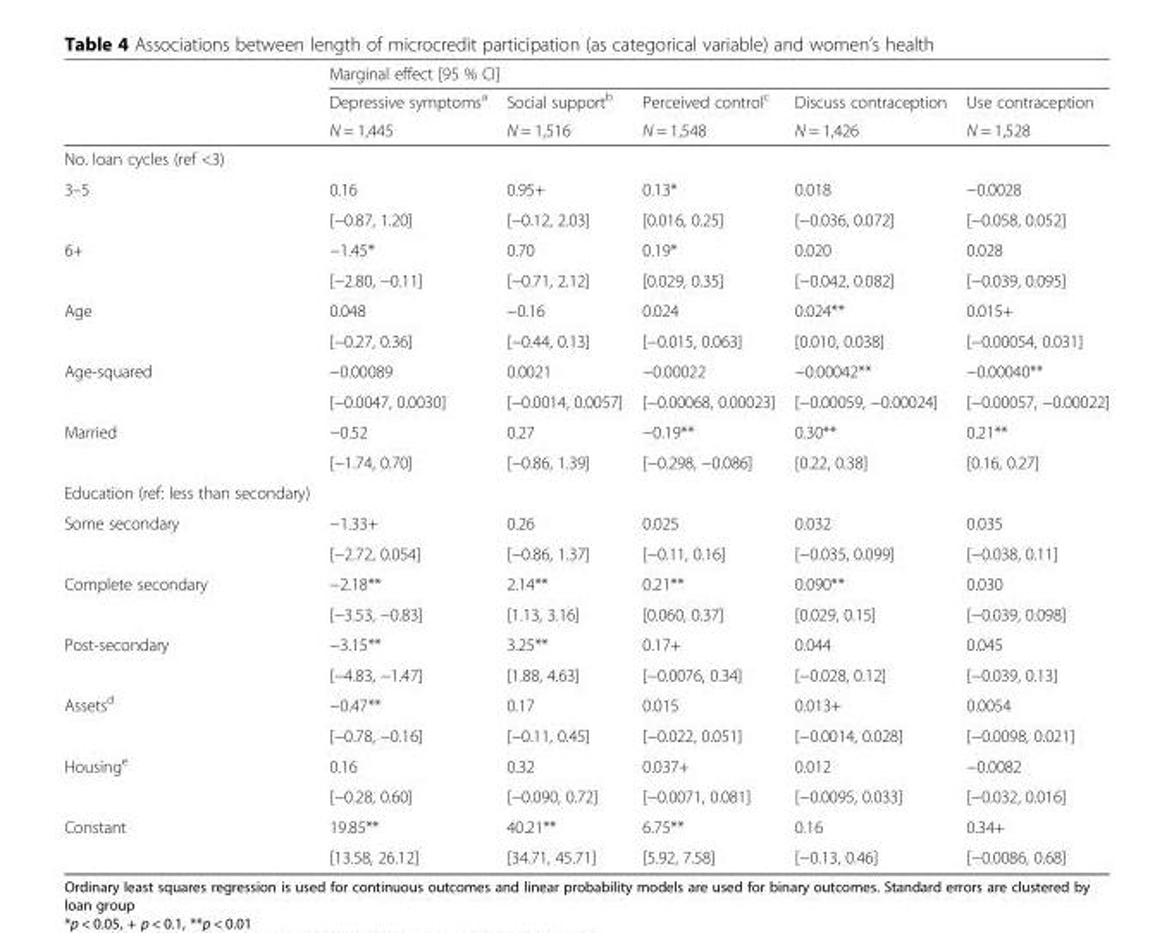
<table><thead><tr><td rowspan="3"></td><td colspan="5">Marginal effect [95 % CI]</td></tr><tr><td rowspan="2">Depressive symptoms<sup>a</sup> N = 1,445</td><td rowspan="2">Social support<sup>b</sup> N = 1,516</td><td rowspan="2">Perceived control<sup>c</sup> N = 1,548</td><td rowspan="2">Discuss contraception N = 1,426</td><td rowspan="2">Use contraception N = 1,528</td></tr><tr></tr></thead><tbody><tr><td colspan="6">No. loan cycles (ref &lt;3)</td></tr><tr><td rowspan="2">3–5</td><td>0.16</td><td>0.95+</td><td>0.13*</td><td>0.018</td><td>−0.0028</td></tr><tr><td>[−0.87, 1.20]</td><td>[−0.12, 2.03]</td><td>[0.016, 0.25]</td><td>[−0.036, 0.072]</td><td>[−0.058, 0.052]</td></tr><tr><td rowspan="2">6+</td><td>−1.45*</td><td>0.70</td><td>0.19*</td><td>0.020</td><td>0.028</td></tr><tr><td>[−2.80, −0.11]</td><td>[−0.71, 2.12]</td><td>[0.029, 0.35]</td><td>[−0.042, 0.082]</td><td>[−0.039, 0.095]</td></tr><tr><td rowspan="2">Age</td><td>0.048</td><td>−0.16</td><td>0.024</td><td>0.024**</td><td>0.015+</td></tr><tr><td>[−0.27, 0.36]</td><td>[−0.44, 0.13]</td><td>[−0.015, 0.063]</td><td>[0.010, 0.038]</td><td>[−0.00054, 0.031]</td></tr><tr><td rowspan="2">Age-squared</td><td>−0.00089</td><td>0.0021</td><td>−0.00022</td><td>−0.00042**</td><td>−0.00040**</td></tr><tr><td>[−0.0047, 0.0030]</td><td>[−0.0014, 0.0057]</td><td>[−0.00068, 0.00023]</td><td>[−0.00059, −0.00024]</td><td>[−0.00057, −0.00022]</td></tr><tr><td rowspan="2">Married</td><td>−0.52</td><td>0.27</td><td>−0.19**</td><td>0.30**</td><td>0.21**</td></tr><tr><td>[−1.74, 0.70]</td><td>[−0.86, 1.39]</td><td>[−0.298, −0.086]</td><td>[0.22, 0.38]</td><td>[0.16, 0.27]</td></tr><tr><td colspan="6">Education (ref: less than secondary)</td></tr><tr><td rowspan="2">Some secondary</td><td>−1.33+</td><td>0.26</td><td>0.025</td><td>0.032</td><td>0.035</td></tr><tr><td>[−2.72, 0.054]</td><td>[−0.86, 1.37]</td><td>[−0.11, 0.16]</td><td>[−0.035, 0.099]</td><td>[−0.038, 0.11]</td></tr><tr><td rowspan="2">Complete secondary</td><td>−2.18**</td><td>2.14**</td><td>0.21**</td><td>0.090**</td><td>0.030</td></tr><tr><td>[−3.53, −0.83]</td><td>[1.13, 3.16]</td><td>[0.060, 0.37]</td><td>[0.029, 0.15]</td><td>[−0.039, 0.098]</td></tr><tr><td rowspan="2">Post-secondary</td><td>−3.15**</td><td>3.25**</td><td>0.17+</td><td>0.044</td><td>0.045</td></tr><tr><td>[−4.83, −1.47]</td><td>[1.88, 4.63]</td><td>[−0.0076, 0.34]</td><td>[−0.028, 0.12]</td><td>[−0.039, 0.13]</td></tr><tr><td rowspan="2">Assets<sup>d</sup></td><td>−0.47**</td><td>0.17</td><td>0.015</td><td>0.013+</td><td>0.0054</td></tr><tr><td>[−0.78, −0.16]</td><td>[−0.11, 0.45]</td><td>[−0.022, 0.051]</td><td>[−0.0014, 0.028]</td><td>[−0.0098, 0.021]</td></tr><tr><td rowspan="2">Housing<sup>e</sup></td><td>0.16</td><td>0.32</td><td>0.037+</td><td>0.012</td><td>−0.0082</td></tr><tr><td>[−0.28, 0.60]</td><td>[−0.090, 0.72]</td><td>[−0.0071, 0.081]</td><td>[−0.0095, 0.033]</td><td>[−0.032, 0.016]</td></tr><tr><td rowspan="2">Constant</td><td>19.85**</td><td>40.21**</td><td>6.75**</td><td>0.16</td><td>0.34+</td></tr><tr><td>[13.58, 26.12]</td><td>[34.71, 45.71]</td><td>[5.92, 7.58]</td><td>[−0.13, 0.46]</td><td>[−0.0086, 0.68]</td></tr></tbody></table>